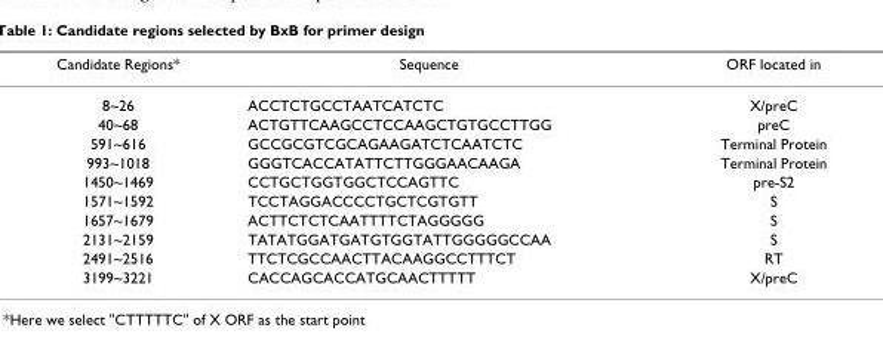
<table><thead><tr><td>Candidate Regions*</td><td>Sequence</td><td>ORF located in</td></tr></thead><tbody><tr><td>8~26</td><td>ACCTCTGCCTAATCATCTC</td><td>X/preC</td></tr><tr><td>40~68</td><td>ACTGTTCAAGCCTCCAAGCTGTGCCTTGG</td><td>preC</td></tr><tr><td>591~616</td><td>GCCGCGTCGCAGAAGATCTCAATCTC</td><td>Terminal Protein</td></tr><tr><td>993~1018</td><td>GGGTCACCATATTCTTGGGAACAAGA</td><td>Terminal Protein</td></tr><tr><td>1450~1469</td><td>CCTGCTGGTGGCTCCAGTTC</td><td>pre-S2</td></tr><tr><td>1571~1592</td><td>TCCTAGGACCCCTGCTCGTGTT</td><td>S</td></tr><tr><td>1657~1679</td><td>ACTTCTCTCAATTTTCTAGGGGG</td><td>S</td></tr><tr><td>2131~2159</td><td>TATATGGATGATGTGGTATTGGGGGCCAA</td><td>S</td></tr><tr><td>2491~2516</td><td>TTCTCGCCAACTTACAAGGCCTTTCT</td><td>RT</td></tr><tr><td>3199~3221</td><td>CACCAGCACCATGCAACTTTTT</td><td>X/preC</td></tr></tbody></table>